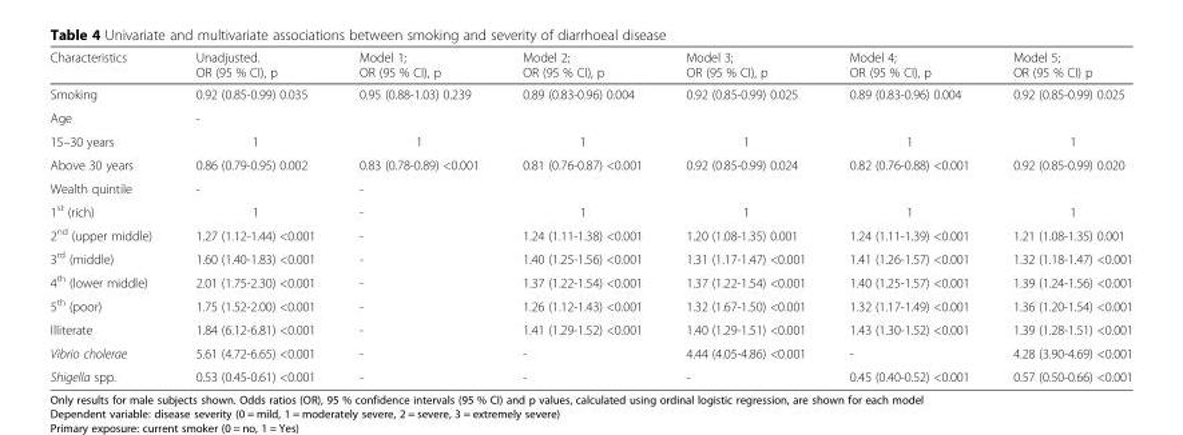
<table><thead><tr><td>Characteristics</td><td>Unadjusted. OR (95 % CI), p</td><td>Model 1; OR (95 % CI), p</td><td>Model 2; OR (95 % CI), p</td><td>Model 3; OR (95 % CI), p</td><td>Model 4; OR (95 % CI), p</td><td>Model 5; OR (95 % CI) p</td></tr></thead><tbody><tr><td>Smoking</td><td>0.92 (0.85-0.99) 0.035</td><td>0.95 (0.88-1.03) 0.239</td><td>0.89 (0.83-0.96) 0.004</td><td>0.92 (0.85-0.99) 0.025</td><td>0.89 (0.83-0.96) 0.004</td><td>0.92 (0.85-0.99) 0.025</td></tr><tr><td>Age</td><td>-</td><td></td><td></td><td></td><td></td><td></td></tr><tr><td>15–30 years</td><td>1</td><td>1</td><td>1</td><td>1</td><td>1</td><td>1</td></tr><tr><td>Above 30 years</td><td>0.86 (0.79-0.95) 0.002</td><td>0.83 (0.78-0.89) &lt;0.001</td><td>0.81 (0.76-0.87) &lt;0.001</td><td>0.92 (0.85-0.99) 0.024</td><td>0.82 (0.76-0.88) &lt;0.001</td><td>0.92 (0.85-0.99) 0.020</td></tr><tr><td>Wealth quintile</td><td>-</td><td>-</td><td></td><td></td><td></td><td></td></tr><tr><td>1<sup>st</sup> (rich)</td><td>1</td><td>-</td><td>1</td><td>1</td><td>1</td><td>1</td></tr><tr><td>2<sup>nd</sup> (upper middle)</td><td>1.27 (1.12-1.44) &lt;0.001</td><td>-</td><td>1.24 (1.11-1.38) &lt;0.001</td><td>1.20 (1.08-1.35) 0.001</td><td>1.24 (1.11-1.39) &lt;0.001</td><td>1.21 (1.08-1.35) 0.001</td></tr><tr><td>3<sup>rd</sup> (middle)</td><td>1.60 (1.40-1.83) &lt;0.001</td><td>-</td><td>1.40 (1.25-1.56) &lt;0.001</td><td>1.31 (1.17-1.47) &lt;0.001</td><td>1.41 (1.26-1.57) &lt;0.001</td><td>1.32 (1.18-1.47) &lt;0.001</td></tr><tr><td>4<sup>th</sup> (lower middle)</td><td>2.01 (1.75-2.30) &lt;0.001</td><td>-</td><td>1.37 (1.22-1.54) &lt;0.001</td><td>1.37 (1.22-1.54) &lt;0.001</td><td>1.40 (1.25-1.57) &lt;0.001</td><td>1.39 (1.24-1.56) &lt;0.001</td></tr><tr><td>5<sup>th</sup> (poor)</td><td>1.75 (1.52-2.00) &lt;0.001</td><td>-</td><td>1.26 (1.12-1.43) &lt;0.001</td><td>1.32 (1.67-1.50) &lt;0.001</td><td>1.32 (1.17-1.49) &lt;0.001</td><td>1.36 (1.20-1.54) &lt;0.001</td></tr><tr><td>Illiterate</td><td>1.84 (6.12-6.81) &lt;0.001</td><td>-</td><td>1.41 (1.29-1.52) &lt;0.001</td><td>1.40 (1.29-1.51) &lt;0.001</td><td>1.43 (1.30-1.52) &lt;0.001</td><td>1.39 (1.28-1.51) &lt;0.001</td></tr><tr><td>Vibrio cholerae</td><td>5.61 (4.72-6.65) &lt;0.001</td><td>-</td><td>-</td><td>4.44 (4.05-4.86) &lt;0.001</td><td>-</td><td>4.28 (3.90-4.69) &lt;0.001</td></tr><tr><td>Shigella spp.</td><td>0.53 (0.45-0.61) &lt;0.001</td><td>-</td><td>-</td><td>-</td><td>0.45 (0.40-0.52) &lt;0.001</td><td>0.57 (0.50-0.66) &lt;0.001</td></tr></tbody></table>